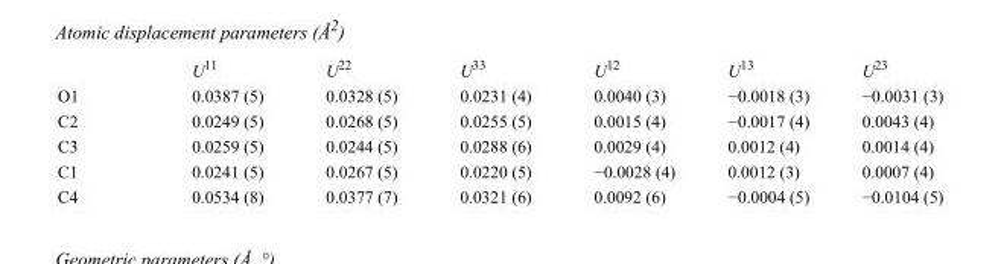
<table><thead><tr><td></td><td>U<sup>11</sup></td><td>U<sup>22</sup></td><td>U<sup>33</sup></td><td>U<sup>12</sup></td><td>U<sup>13</sup></td><td>U<sup>23</sup></td></tr></thead><tbody><tr><td>O1</td><td>0.0387 (5)</td><td>0.0328 (5)</td><td>0.0231 (4)</td><td>0.0040 (3)</td><td>−0.0018 (3)</td><td>−0.0031 (3)</td></tr><tr><td>C2</td><td>0.0249 (5)</td><td>0.0268 (5)</td><td>0.0255 (5)</td><td>0.0015 (4)</td><td>−0.0017 (4)</td><td>0.0043 (4)</td></tr><tr><td>C3</td><td>0.0259 (5)</td><td>0.0244 (5)</td><td>0.0288 (6)</td><td>0.0029 (4)</td><td>0.0012 (4)</td><td>0.0014 (4)</td></tr><tr><td>C1</td><td>0.0241 (5)</td><td>0.0267 (5)</td><td>0.0220 (5)</td><td>−0.0028 (4)</td><td>0.0012 (3)</td><td>0.0007 (4)</td></tr><tr><td>C4</td><td>0.0534 (8)</td><td>0.0377 (7)</td><td>0.0321 (6)</td><td>0.0092 (6)</td><td>−0.0004 (5)</td><td>−0.0104 (5)</td></tr></tbody></table>